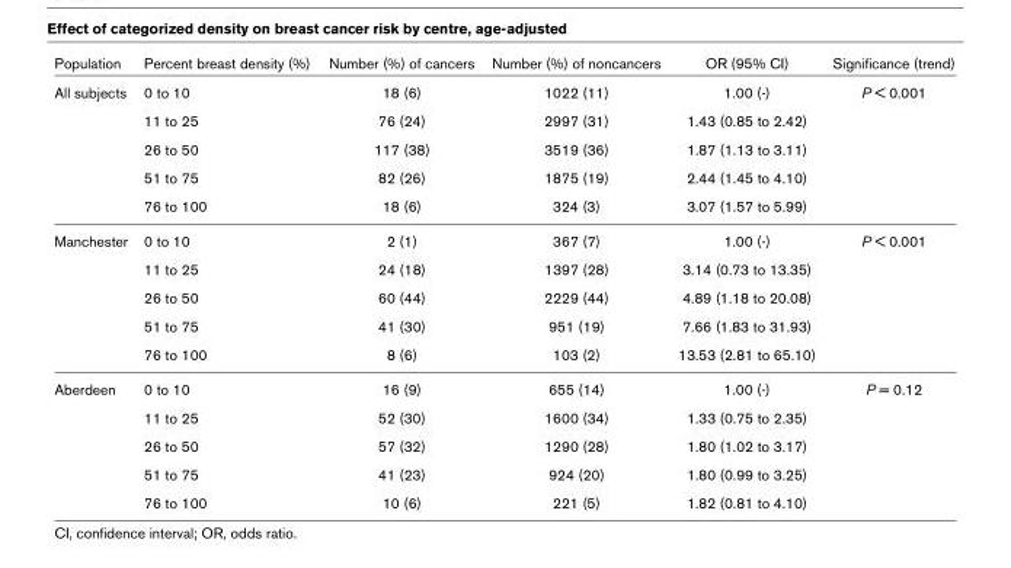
<table><thead><tr><td>Population</td><td>Percent breast density (%)</td><td>Number (%) of cancers</td><td>Number (%) of noncancers</td><td>OR (95% CI)</td><td>Significance (trend)</td></tr></thead><tbody><tr><td rowspan="5">All subjects</td><td>0 to 10</td><td>18 (6)</td><td>1022 (11)</td><td>1.00 (-)</td><td>P &lt; 0.001</td></tr><tr><td>11 to 25</td><td>76 (24)</td><td>2997 (31)</td><td>1.43 (0.85 to 2.42)</td><td></td></tr><tr><td>26 to 50</td><td>117 (38)</td><td>3519 (36)</td><td>1.87 (1.13 to 3.11)</td><td></td></tr><tr><td>51 to 75</td><td>82 (26)</td><td>1875 (19)</td><td>2.44 (1.45 to 4.10)</td><td></td></tr><tr><td>76 to 100</td><td>18 (6)</td><td>324 (3)</td><td>3.07 (1.57 to 5.99)</td><td></td></tr><tr><td rowspan="5">Manchester</td><td>0 to 10</td><td>2 (1)</td><td>367 (7)</td><td>1.00 (-)</td><td>P &lt; 0.001</td></tr><tr><td>11 to 25</td><td>24 (18)</td><td>1397 (28)</td><td>3.14 (0.73 to 13.35)</td><td></td></tr><tr><td>26 to 50</td><td>60 (44)</td><td>2229 (44)</td><td>4.89 (1.18 to 20.08)</td><td></td></tr><tr><td>51 to 75</td><td>41 (30)</td><td>951 (19)</td><td>7.66 (1.83 to 31.93)</td><td></td></tr><tr><td>76 to 100</td><td>8 (6)</td><td>103 (2)</td><td>13.53 (2.81 to 65.10)</td><td></td></tr><tr><td rowspan="5">Aberdeen</td><td>0 to 10</td><td>16 (9)</td><td>655 (14)</td><td>1.00 (-)</td><td>P = 0.12</td></tr><tr><td>11 to 25</td><td>52 (30)</td><td>1600 (34)</td><td>1.33 (0.75 to 2.35)</td><td></td></tr><tr><td>26 to 50</td><td>57 (32)</td><td>1290 (28)</td><td>1.80 (1.02 to 3.17)</td><td></td></tr><tr><td>51 to 75</td><td>41 (23)</td><td>924 (20)</td><td>1.80 (0.99 to 3.25)</td><td></td></tr><tr><td>76 to 100</td><td>10 (6)</td><td>221 (5)</td><td>1.82 (0.81 to 4.10)</td><td></td></tr></tbody></table>